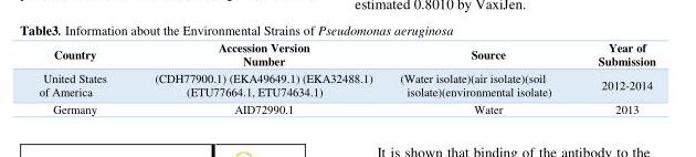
<table><thead><tr><td>Year of Submission</td><td>Source</td><td>Accession Version Number</td><td>Country</td></tr></thead><tbody><tr><td>2012-2014</td><td>(Water isolate)(air isolate)(soil isolate)(environmental isolate)</td><td>(CDH77900.1) (EKA49649.1) (EKA32488.1) (ETU77664.1, ETU74634.1)</td><td>United States of America</td></tr><tr><td>2013</td><td>Water</td><td>AID72990.1</td><td>Germany</td></tr></tbody></table>